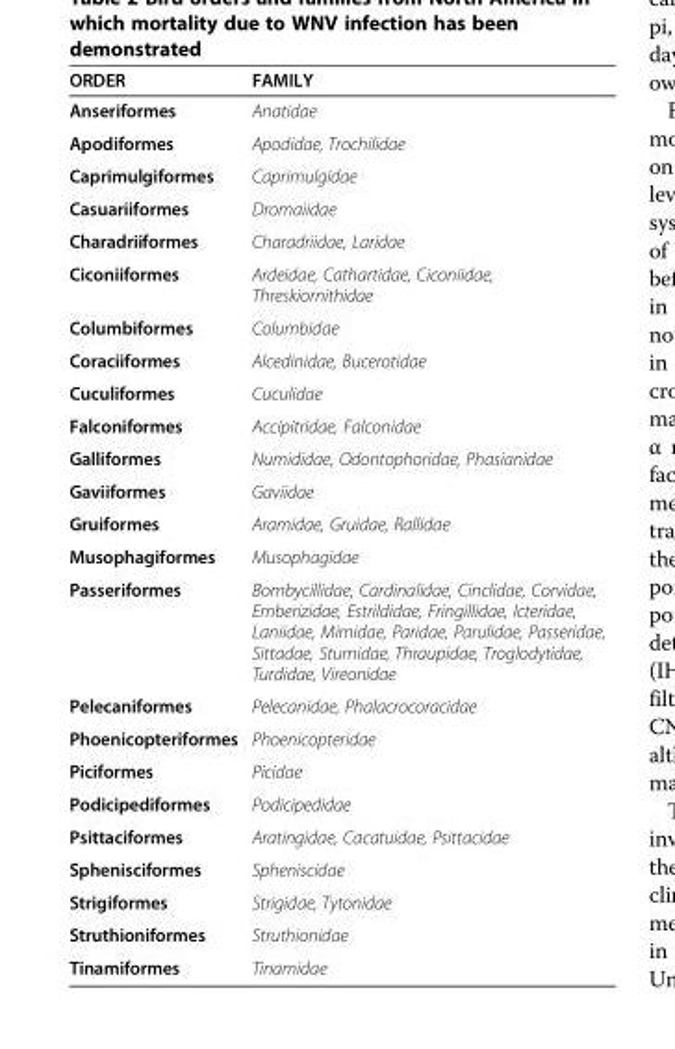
<table><thead><tr><td>ORDER</td><td>FAMILY</td></tr></thead><tbody><tr><td>Anseriformes</td><td>Anatidae</td></tr><tr><td>Apodiformes</td><td>Apodidae, Trochilidae</td></tr><tr><td>Caprimulgiformes</td><td>Caprimulgidae</td></tr><tr><td>Casuariiformes</td><td>Dromaiidae</td></tr><tr><td>Charadriiformes</td><td>Charadriidae, Laridae</td></tr><tr><td>Ciconiiformes</td><td>Ardeidae, Cathartidae, Ciconiidae, Threskiornithidae</td></tr><tr><td>Columbiformes</td><td>Columbidae</td></tr><tr><td>Coraciiformes</td><td>Alcedinidae, Bucerotidae</td></tr><tr><td>Cuculiformes</td><td>Cuculidae</td></tr><tr><td>Falconiformes</td><td>Accipitridae, Falconidae</td></tr><tr><td>Galliformes</td><td>Numididae, Odontophoridae, Phasianidae</td></tr><tr><td>Gaviiformes</td><td>Gaviidae</td></tr><tr><td>Gruiformes</td><td>Aramidae, Gruidae, Rallidae</td></tr><tr><td>Musophagiformes</td><td>Musophagidae</td></tr><tr><td>Passeriformes</td><td>Bombycillidae, Cardinalidae, Cinclidae, Corvidae, Emberizidae, Estrildidae, Fringillidae, Icteridae, Laniidae, Mimidae, Paridae, Parulidae, Passeridae, Sittadae, Sturnidae, Thraupidae, Troglodytidae, Turdidae, Vireonidae</td></tr><tr><td>Pelecaniformes</td><td>Pelecanidae, Phalacrocoracidae</td></tr><tr><td>Phoenicopteriformes</td><td>Phoenicopteridae</td></tr><tr><td>Piciformes</td><td>Picidae</td></tr><tr><td>Podicipediformes</td><td>Podicipedidae</td></tr><tr><td>Psittaciformes</td><td>Aratingidae, Cacatuidae, Psittacidae</td></tr><tr><td>Sphenisciformes</td><td>Spheniscidae</td></tr><tr><td>Strigiformes</td><td>Strigidae, Tytonidae</td></tr><tr><td>Struthioniformes</td><td>Struthionidae</td></tr><tr><td>Tinamiformes</td><td>Tinamidae</td></tr></tbody></table>